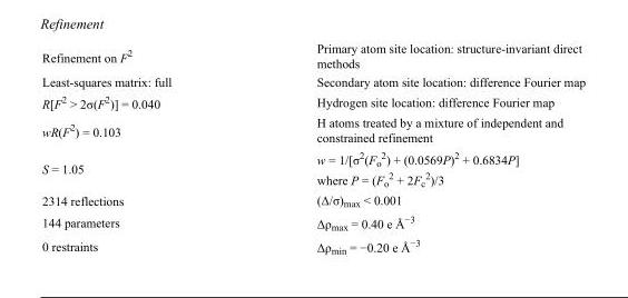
<table><tbody><tr><td>Refinement on F<sup>2</sup></td><td>Primary atom site location: structure-invariant direct methods</td></tr><tr><td>Least-squares matrix: full</td><td>Secondary atom site location: difference Fourier map</td></tr><tr><td>R[F<sup>2</sup> &gt; 2σ(F<sup>2</sup>)] = 0.040</td><td>Hydrogen site location: difference Fourier map</td></tr><tr><td>wR(F<sup>2</sup>) = 0.103</td><td>H atoms treated by a mixture of independent and constrained refinement</td></tr><tr><td>S = 1.05</td><td>w = 1/[σ<sup>2</sup>(F<sub>o</sub> <sup>2</sup>) + (0.0569P)<sup>2</sup> + 0.6834P] where P = (F<sub>o</sub> <sup>2</sup> + 2F<sub>c</sub> <sup>2</sup>)/3</td></tr><tr><td>2314 reflections</td><td>(Δ/σ)<sub>max</sub> &lt; 0.001</td></tr><tr><td>144 parameters</td><td>Δρ<sub>max</sub> = 0.40 e Å<sup>−3</sup></td></tr><tr><td>0 restraints</td><td>Δρ<sub>min</sub> = −0.20 e Å<sup>−3</sup></td></tr></tbody></table>